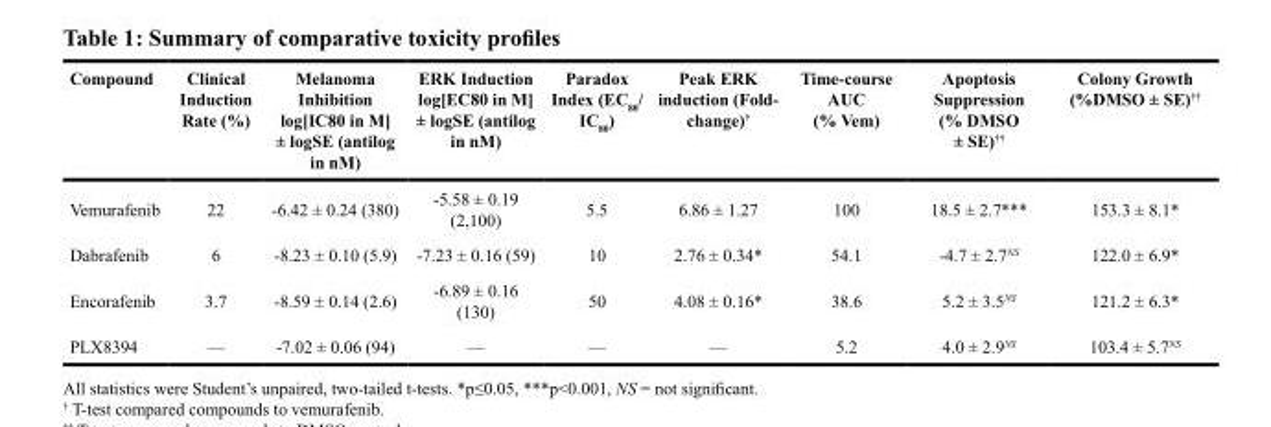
<table><thead><tr><td>Compound</td><td>Clinical Induction Rate (%)</td><td>Melanoma Inhibition log[IC80 in M] ± logSE (antilog in nM)</td><td>ERK Induction log[EC80 in M] ± logSE (antilog in nM)</td><td>Paradox Index (EC<sub>80</sub>/ IC<sub>80</sub>)</td><td>Peak ERK induction (Fold- change)<sup>†</sup></td><td>Time-course AUC (% Vem)</td><td>Apoptosis Suppression (% DMSO ± SE)<sup>††</sup></td><td>Colony Growth (%DMSO ± SE)<sup>††</sup></td></tr></thead><tbody><tr><td>Vemurafenib</td><td>22</td><td>-6.42 ± 0.24 (380)</td><td>-5.58 ± 0.19 (2,100)</td><td>5.5</td><td>6.86 ± 1.27</td><td>100</td><td>18.5 ± 2.7***</td><td>153.3 ± 8.1*</td></tr><tr><td>Dabrafenib</td><td>6</td><td>-8.23 ± 0.10 (5.9)</td><td>-7.23 ± 0.16 (59)</td><td>10</td><td>2.76 ± 0.34*</td><td>54.1</td><td>-4.7 ± 2.7<sup>NS</sup></td><td>122.0 ± 6.9*</td></tr><tr><td>Encorafenib</td><td>3.7</td><td>-8.59 ± 0.14 (2.6)</td><td>-6.89 ± 0.16 (130)</td><td>50</td><td>4.08 ± 0.16*</td><td>38.6</td><td>5.2 ± 3.5<sup>NS</sup></td><td>121.2 ± 6.3*</td></tr><tr><td>PLX8394</td><td>—</td><td>-7.02 ± 0.06 (94)</td><td>—</td><td>—</td><td>—</td><td>5.2</td><td>4.0 ± 2.9<sup>NS</sup></td><td>103.4 ± 5.7<sup>NS</sup></td></tr></tbody></table>